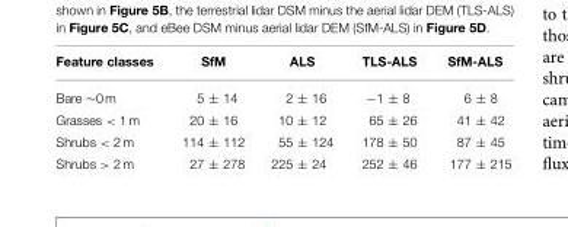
<table><thead><tr><td>Feature classes</td><td>SfM</td><td>ALS</td><td>TLS-ALS</td><td>SfM-ALS</td></tr></thead><tbody><tr><td>Bare ∼0 m</td><td>5 ± 14</td><td>2 ± 16</td><td>−1 ± 8</td><td>6 ± 8</td></tr><tr><td>Grasses &lt; 1 m</td><td>20 ± 16</td><td>10 ± 12</td><td>65 ± 26</td><td>41 ± 42</td></tr><tr><td>Shrubs &lt; 2 m</td><td>114 ± 112</td><td>55 ± 124</td><td>178 ± 50</td><td>87 ± 45</td></tr><tr><td>Shrubs &gt; 2 m</td><td>27 ± 278</td><td>225 ± 24</td><td>252 ± 46</td><td>177 ± 215</td></tr></tbody></table>